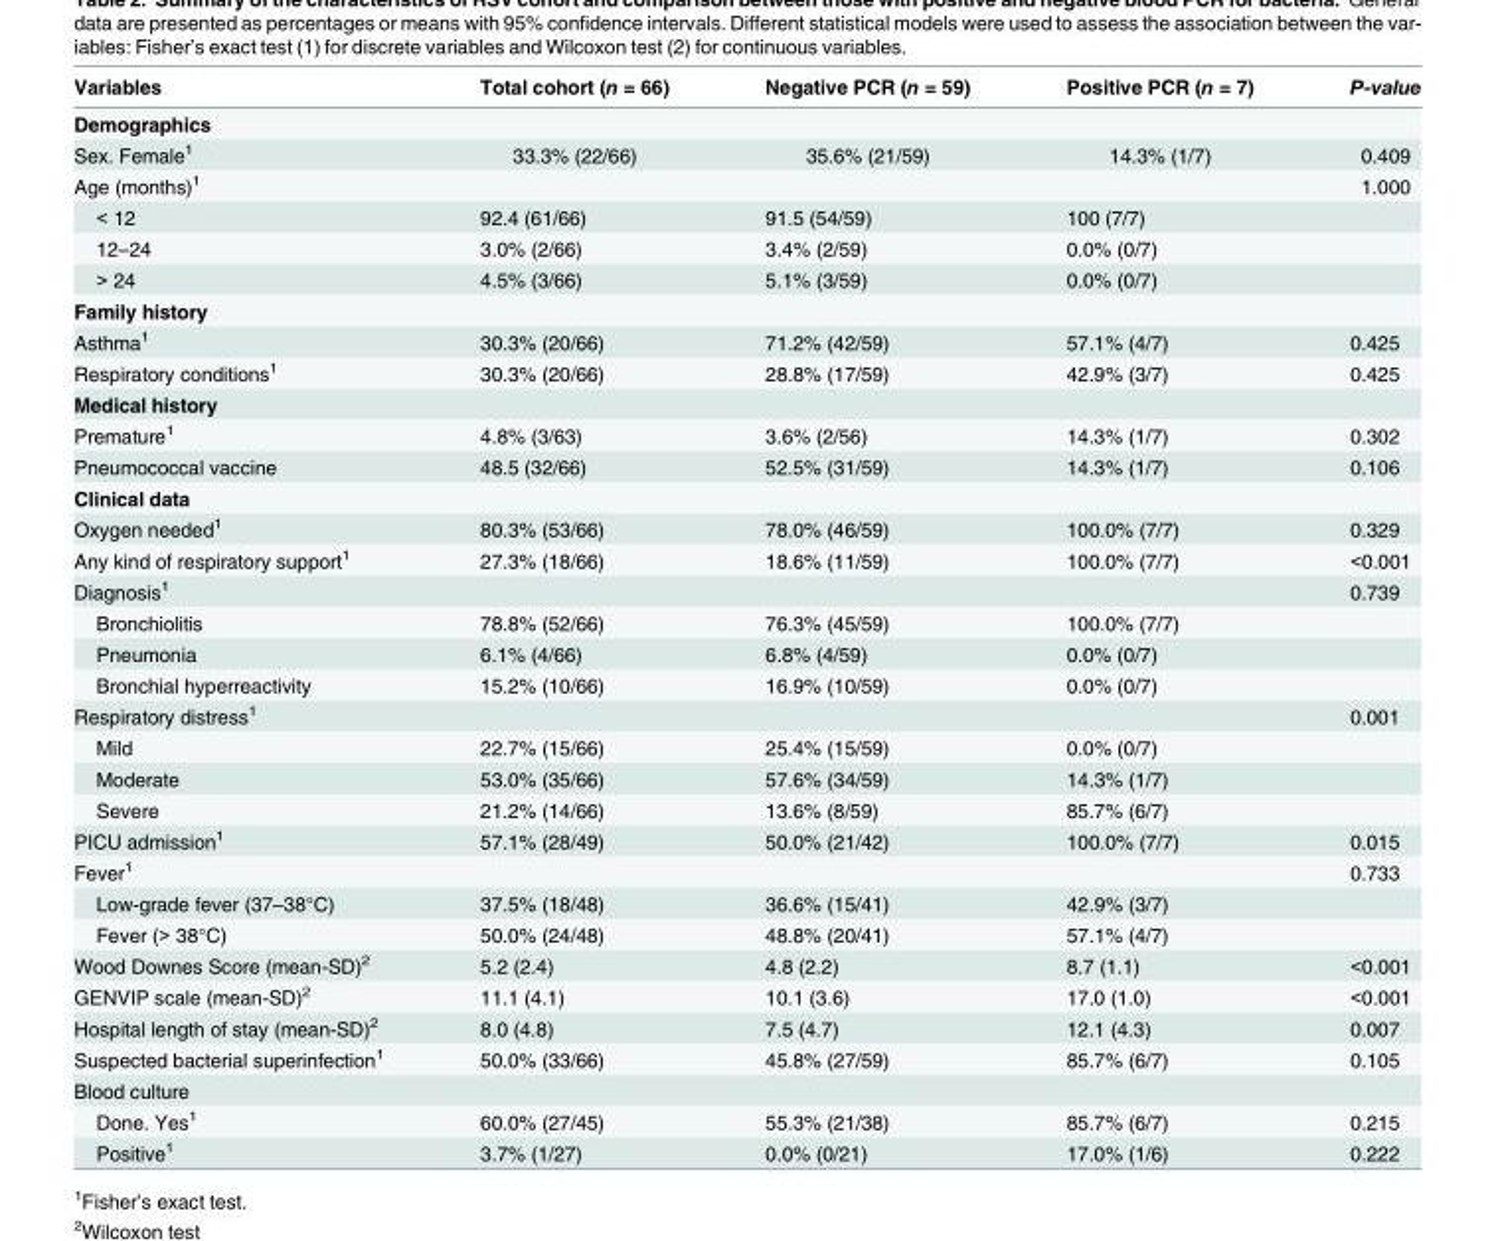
<table><thead><tr><td>Variables</td><td>Total cohort (n = 66)</td><td>Negative PCR (n = 59)</td><td>Positive PCR (n = 7)</td><td>P-value</td></tr></thead><tbody><tr><td colspan="5">Demographics</td></tr><tr><td>Sex. Female<sup>1</sup></td><td>33.3% (22/66)</td><td>35.6% (21/59)</td><td>14.3% (1/7)</td><td>0.409</td></tr><tr><td>Age (months)<sup>1</sup></td><td></td><td></td><td></td><td>1.000</td></tr><tr><td>&lt; 12</td><td>92.4 (61/66)</td><td>91.5 (54/59)</td><td>100 (7/7)</td><td></td></tr><tr><td>12–24</td><td>3.0% (2/66)</td><td>3.4% (2/59)</td><td>0.0% (0/7)</td><td></td></tr><tr><td>&gt; 24</td><td>4.5% (3/66)</td><td>5.1% (3/59)</td><td>0.0% (0/7)</td><td></td></tr><tr><td colspan="5">Family history</td></tr><tr><td>Asthma<sup>1</sup></td><td>30.3% (20/66)</td><td>71.2% (42/59)</td><td>57.1% (4/7)</td><td>0.425</td></tr><tr><td>Respiratory conditions<sup>1</sup></td><td>30.3% (20/66)</td><td>28.8% (17/59)</td><td>42.9% (3/7)</td><td>0.425</td></tr><tr><td colspan="5">Medical history</td></tr><tr><td>Premature<sup>1</sup></td><td>4.8% (3/63)</td><td>3.6% (2/56)</td><td>14.3% (1/7)</td><td>0.302</td></tr><tr><td>Pneumococcal vaccine</td><td>48.5 (32/66)</td><td>52.5% (31/59)</td><td>14.3% (1/7)</td><td>0.106</td></tr><tr><td colspan="5">Clinical data</td></tr><tr><td>Oxygen needed<sup>1</sup></td><td>80.3% (53/66)</td><td>78.0% (46/59)</td><td>100.0% (7/7)</td><td>0.329</td></tr><tr><td>Any kind of respiratory support<sup>1</sup></td><td>27.3% (18/66)</td><td>18.6% (11/59)</td><td>100.0% (7/7)</td><td>&lt;0.001</td></tr><tr><td>Diagnosis<sup>1</sup></td><td></td><td></td><td></td><td>0.739</td></tr><tr><td>Bronchiolitis</td><td>78.8% (52/66)</td><td>76.3% (45/59)</td><td>100.0% (7/7)</td><td></td></tr><tr><td>Pneumonia</td><td>6.1% (4/66)</td><td>6.8% (4/59)</td><td>0.0% (0/7)</td><td></td></tr><tr><td>Bronchial hyperreactivity</td><td>15.2% (10/66)</td><td>16.9% (10/59)</td><td>0.0% (0/7)</td><td></td></tr><tr><td>Respiratory distress<sup>1</sup></td><td></td><td></td><td></td><td>0.001</td></tr><tr><td>Mild</td><td>22.7% (15/66)</td><td>25.4% (15/59)</td><td>0.0% (0/7)</td><td></td></tr><tr><td>Moderate</td><td>53.0% (35/66)</td><td>57.6% (34/59)</td><td>14.3% (1/7)</td><td></td></tr><tr><td>Severe</td><td>21.2% (14/66)</td><td>13.6% (8/59)</td><td>85.7% (6/7)</td><td></td></tr><tr><td>PICU admission<sup>1</sup></td><td>57.1% (28/49)</td><td>50.0% (21/42)</td><td>100.0% (7/7)</td><td>0.015</td></tr><tr><td>Fever<sup>1</sup></td><td></td><td></td><td></td><td>0.733</td></tr><tr><td>Low-grade fever (37–38°C)</td><td>37.5% (18/48)</td><td>36.6% (15/41)</td><td>42.9% (3/7)</td><td></td></tr><tr><td>Fever (&gt; 38°C)</td><td>50.0% (24/48)</td><td>48.8% (20/41)</td><td>57.1% (4/7)</td><td></td></tr><tr><td>Wood Downes Score (mean-SD)<sup>2</sup></td><td>5.2 (2.4)</td><td>4.8 (2.2)</td><td>8.7 (1.1)</td><td>&lt;0.001</td></tr><tr><td>GENVIP scale (mean-SD)<sup>2</sup></td><td>11.1 (4.1)</td><td>10.1 (3.6)</td><td>17.0 (1.0)</td><td>&lt;0.001</td></tr><tr><td>Hospital length of stay (mean-SD)<sup>2</sup></td><td>8.0 (4.8)</td><td>7.5 (4.7)</td><td>12.1 (4.3)</td><td>0.007</td></tr><tr><td>Suspected bacterial superinfection<sup>1</sup></td><td>50.0% (33/66)</td><td>45.8% (27/59)</td><td>85.7% (6/7)</td><td>0.105</td></tr><tr><td colspan="5">Blood culture</td></tr><tr><td>Done. Yes<sup>1</sup></td><td>60.0% (27/45)</td><td>55.3% (21/38)</td><td>85.7% (6/7)</td><td>0.215</td></tr><tr><td>Positive<sup>1</sup></td><td>3.7% (1/27)</td><td>0.0% (0/21)</td><td>17.0% (1/6)</td><td>0.222</td></tr></tbody></table>